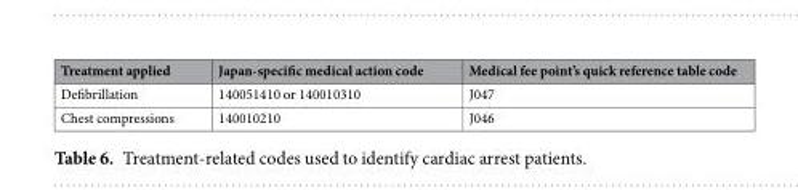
<table><thead><tr><td>Treatment applied</td><td>Japan-specific medical action code</td><td>Medical fee point’s quick reference table code</td></tr></thead><tbody><tr><td>Defibrillation</td><td>140051410 or 140010310</td><td>J047</td></tr><tr><td>Chest compressions</td><td>140010210</td><td>J046</td></tr></tbody></table>